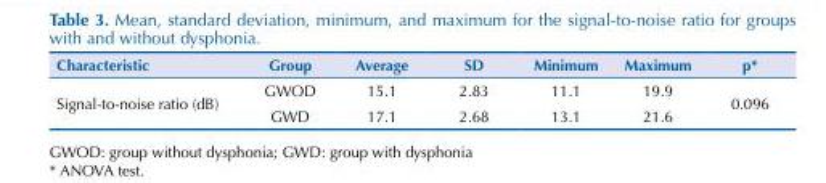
<table><thead><tr><td>Characteristic</td><td>Group</td><td>Average</td><td>SD</td><td>Minimum</td><td>Maximum</td><td>p*</td></tr></thead><tbody><tr><td rowspan="2">Signal-to-noise ratio (dB)</td><td>GWOD</td><td>15.1</td><td>2.83</td><td>11.1</td><td>19.9</td><td rowspan="2">0.096</td></tr><tr><td>GWD</td><td>17.1</td><td>2.68</td><td>13.1</td><td>21.6</td></tr></tbody></table>